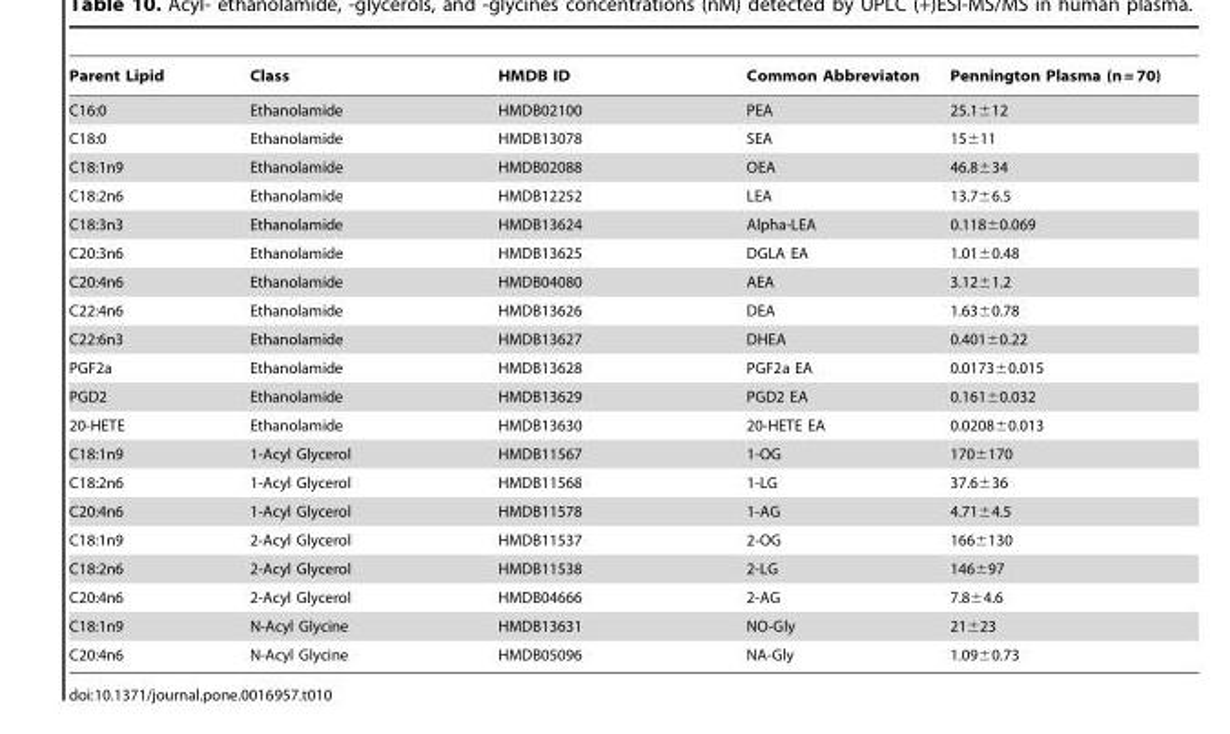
<table><thead><tr><td>Parent Lipid</td><td>Class</td><td>HMDB ID</td><td>Common Abbreviaton</td><td>Pennington Plasma (n = 70)</td></tr></thead><tbody><tr><td>C16:0</td><td>Ethanolamide</td><td>HMDB02100</td><td>PEA</td><td>25.1±12</td></tr><tr><td>C18:0</td><td>Ethanolamide</td><td>HMDB13078</td><td>SEA</td><td>15±11</td></tr><tr><td>C18:1n9</td><td>Ethanolamide</td><td>HMDB02088</td><td>OEA</td><td>46.8±34</td></tr><tr><td>C18:2n6</td><td>Ethanolamide</td><td>HMDB12252</td><td>LEA</td><td>13.7±6.5</td></tr><tr><td>C18:3n3</td><td>Ethanolamide</td><td>HMDB13624</td><td>Alpha-LEA</td><td>0.118±0.069</td></tr><tr><td>C20:3n6</td><td>Ethanolamide</td><td>HMDB13625</td><td>DGLA EA</td><td>1.01±0.48</td></tr><tr><td>C20:4n6</td><td>Ethanolamide</td><td>HMDB04080</td><td>AEA</td><td>3.12±1.2</td></tr><tr><td>C22:4n6</td><td>Ethanolamide</td><td>HMDB13626</td><td>DEA</td><td>1.63±0.78</td></tr><tr><td>C22:6n3</td><td>Ethanolamide</td><td>HMDB13627</td><td>DHEA</td><td>0.401±0.22</td></tr><tr><td>PGF2a</td><td>Ethanolamide</td><td>HMDB13628</td><td>PGF2a EA</td><td>0.0173±0.015</td></tr><tr><td>PGD2</td><td>Ethanolamide</td><td>HMDB13629</td><td>PGD2 EA</td><td>0.161±0.032</td></tr><tr><td>20-HETE</td><td>Ethanolamide</td><td>HMDB13630</td><td>20-HETE EA</td><td>0.0208±0.013</td></tr><tr><td>C18:1n9</td><td>1-Acyl Glycerol</td><td>HMDB11567</td><td>1-OG</td><td>170±170</td></tr><tr><td>C18:2n6</td><td>1-Acyl Glycerol</td><td>HMDB11568</td><td>1-LG</td><td>37.6±36</td></tr><tr><td>C20:4n6</td><td>1-Acyl Glycerol</td><td>HMDB11578</td><td>1-AG</td><td>4.71±4.5</td></tr><tr><td>C18:1n9</td><td>2-Acyl Glycerol</td><td>HMDB11537</td><td>2-OG</td><td>166±130</td></tr><tr><td>C18:2n6</td><td>2-Acyl Glycerol</td><td>HMDB11538</td><td>2-LG</td><td>146±97</td></tr><tr><td>C20:4n6</td><td>2-Acyl Glycerol</td><td>HMDB04666</td><td>2-AG</td><td>7.8±4.6</td></tr><tr><td>C18:1n9</td><td>N-Acyl Glycine</td><td>HMDB13631</td><td>NO-Gly</td><td>21±23</td></tr><tr><td>C20:4n6</td><td>N-Acyl Glycine</td><td>HMDB05096</td><td>NA-Gly</td><td>1.09±0.73</td></tr></tbody></table>